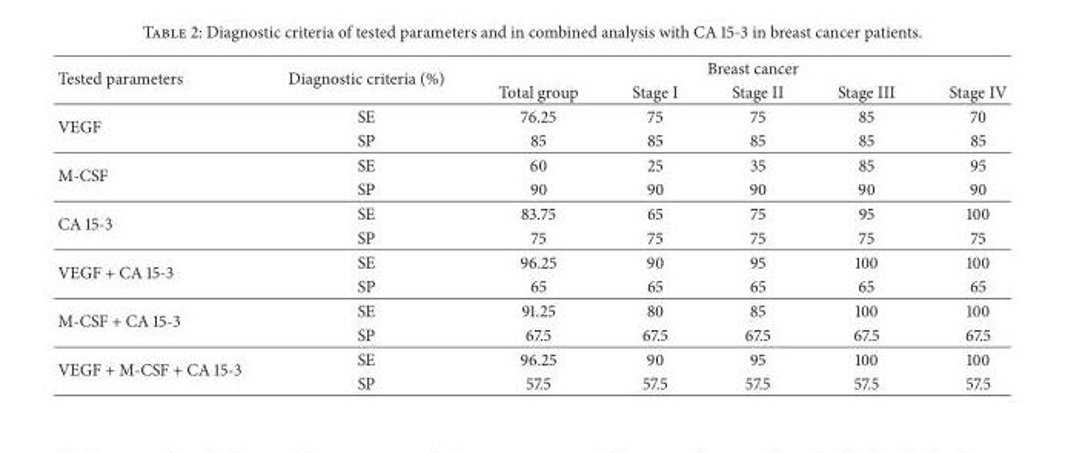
<table><thead><tr><td rowspan="2">Tested parameters</td><td rowspan="2">Diagnostic criteria (%)</td><td colspan="5">Breast cancer</td></tr><tr><td>Total group</td><td>Stage I</td><td>Stage II</td><td>Stage III</td><td>Stage IV</td></tr></thead><tbody><tr><td rowspan="2">VEGF</td><td>SE</td><td>76.25</td><td>75</td><td>75</td><td>85</td><td>70</td></tr><tr><td>SP</td><td>85</td><td>85</td><td>85</td><td>85</td><td>85</td></tr><tr><td rowspan="2">M-CSF</td><td>SE</td><td>60</td><td>25</td><td>35</td><td>85</td><td>95</td></tr><tr><td>SP</td><td>90</td><td>90</td><td>90</td><td>90</td><td>90</td></tr><tr><td rowspan="2">CA 15-3</td><td>SE</td><td>83.75</td><td>65</td><td>75</td><td>95</td><td>100</td></tr><tr><td>SP</td><td>75</td><td>75</td><td>75</td><td>75</td><td>75</td></tr><tr><td rowspan="2">VEGF + CA 15-3</td><td>SE</td><td>96.25</td><td>90</td><td>95</td><td>100</td><td>100</td></tr><tr><td>SP</td><td>65</td><td>65</td><td>65</td><td>65</td><td>65</td></tr><tr><td rowspan="2">M-CSF + CA 15-3</td><td>SE</td><td>91.25</td><td>80</td><td>85</td><td>100</td><td>100</td></tr><tr><td>SP</td><td>67.5</td><td>67.5</td><td>67.5</td><td>67.5</td><td>67.5</td></tr><tr><td rowspan="2">VEGF + M-CSF + CA 15-3</td><td>SE</td><td>96.25</td><td>90</td><td>95</td><td>100</td><td>100</td></tr><tr><td>SP</td><td>57.5</td><td>57.5</td><td>57.5</td><td>57.5</td><td>57.5</td></tr></tbody></table>